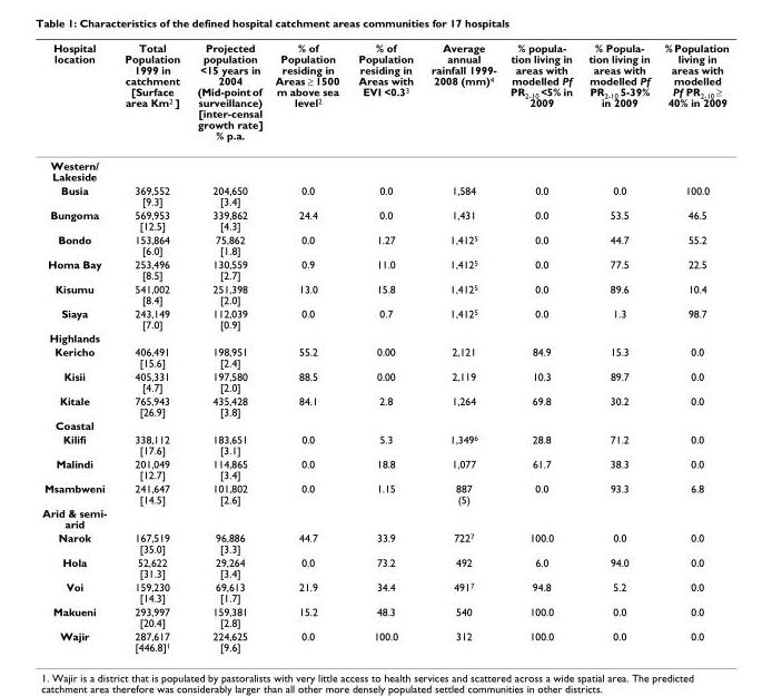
<table><thead><tr><td>Hospital location</td><td>Total Population 1999 in catchment [Surface area Km<sup>2</sup> ]</td><td>Projected population &lt;15 years in 2004 (Mid-point of surveillance) [inter-censal growth rate] % p.a.</td><td>% of Population residing in Areas ≥ 1500 m above sea level<sup>2</sup></td><td>% of Population residing in Areas with EVI &lt;0.3<sup>3</sup></td><td>Average annual rainfall 1999- 2008 (mm)<sup>4</sup></td><td>% popula- tion living in areas with modelled Pf PR2-10 &lt;5% in 2009</td><td>% Popula- tion living in areas with modelled Pf PR2-10 5-39% in 2009</td><td>% Population living in areas with modelled Pf PR<sub>2-10</sub> ≥ 40% in 2009</td></tr></thead><tbody><tr><td colspan="9">Western/ Lakeside</td></tr><tr><td>Busia</td><td>369,552 [9.3]</td><td>204,650 [3.4]</td><td>0.0</td><td>0.0</td><td>1,584</td><td>0.0</td><td>0.0</td><td>100.0</td></tr><tr><td>Bungoma</td><td>569,953 [12.5]</td><td>339,862 [4.3]</td><td>24.4</td><td>0.0</td><td>1,431</td><td>0.0</td><td>53.5</td><td>46.5</td></tr><tr><td>Bondo</td><td>153,864 [6.0]</td><td>75,862 [1.8]</td><td>0.0</td><td>1.27</td><td>1,412<sup>5</sup></td><td>0.0</td><td>44.7</td><td>55.2</td></tr><tr><td>Homa Bay</td><td>253,496 [8.5]</td><td>130,559 [2.7]</td><td>0.9</td><td>11.0</td><td>1,412<sup>5</sup></td><td>0.0</td><td>77.5</td><td>22.5</td></tr><tr><td>Kisumu</td><td>541,002 [8.4]</td><td>251,398 [2.0]</td><td>13.0</td><td>15.8</td><td>1,412<sup>5</sup></td><td>0.0</td><td>89.6</td><td>10.4</td></tr><tr><td>Siaya</td><td>243,149 [7.0]</td><td>112,039 [0.9]</td><td>0.0</td><td>0.7</td><td>1,412<sup>5</sup></td><td>0.0</td><td>1.3</td><td>98.7</td></tr><tr><td colspan="9">Highlands</td></tr><tr><td>Kericho</td><td>406,491 [15.6]</td><td>198,951 [2.4]</td><td>55.2</td><td>0.00</td><td>2,121</td><td>84.9</td><td>15.3</td><td>0.0</td></tr><tr><td>Kisii</td><td>405,331 [4.7]</td><td>197,580 [2.0]</td><td>88.5</td><td>0.00</td><td>2,119</td><td>10.3</td><td>89.7</td><td>0.0</td></tr><tr><td>Kitale</td><td>765,943 [26.9]</td><td>435,428 [3.8]</td><td>84.1</td><td>2.8</td><td>1,264</td><td>69.8</td><td>30.2</td><td>0.0</td></tr><tr><td colspan="9">Coastal</td></tr><tr><td>Kilifi</td><td>338,112 [17.6]</td><td>183,651 [3.1]</td><td>0.0</td><td>5.3</td><td>1,349<sup>6</sup></td><td>28.8</td><td>71.2</td><td>0.0</td></tr><tr><td>Malindi</td><td>201,049 [12.7]</td><td>114,865 [3.4]</td><td>0.0</td><td>18.8</td><td>1,077</td><td>61.7</td><td>38.3</td><td>0.0</td></tr><tr><td>Msambweni</td><td>241,647 [14.5]</td><td>101,802 [2.6]</td><td>0.0</td><td>1.15</td><td>887 (5)</td><td>0.0</td><td>93.3</td><td>6.8</td></tr><tr><td colspan="9">Arid &amp; semi- arid</td></tr><tr><td>Narok</td><td>167,519 [35.0]</td><td>96,886 [3.3]</td><td>44.7</td><td>33.9</td><td>722<sup>7</sup></td><td>100.0</td><td>0.0</td><td>0.0</td></tr><tr><td>Hola</td><td>52,622 [31.3]</td><td>29,264 [3.4]</td><td>0.0</td><td>73.2</td><td>492</td><td>6.0</td><td>94.0</td><td>0.0</td></tr><tr><td>Voi</td><td>159,230 [14.3]</td><td>69,613 [1.7]</td><td>21.9</td><td>34.4</td><td>491<sup>7</sup></td><td>94.8</td><td>5.2</td><td>0.0</td></tr><tr><td>Makueni</td><td>293,997 [20.4]</td><td>159,381 [2.8]</td><td>15.2</td><td>48.3</td><td>540</td><td>100.0</td><td>0.0</td><td>0.0</td></tr><tr><td>Wajir</td><td>287,617 [446.8]<sup>1</sup></td><td>224,625 [9.6]</td><td>0.0</td><td>100.0</td><td>312</td><td>100.0</td><td>0.0</td><td>0.0</td></tr></tbody></table>